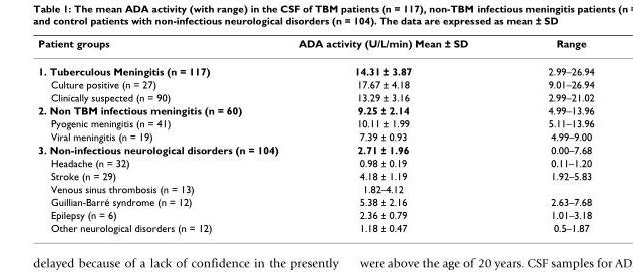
<table><thead><tr><td>Patient groups</td><td>ADA activity (U/L/min) Mean ± SD</td><td>Range</td></tr></thead><tbody><tr><td>1. Tuberculous Meningitis (n = 117)</td><td>14.31 ± 3.87</td><td>2.99–26.94</td></tr><tr><td>Culture positive (n = 27)</td><td>17.67 ± 4.18</td><td>9.01–26.94</td></tr><tr><td>Clinically suspected (n = 90)</td><td>13.29 ± 3.16</td><td>2.99–21.02</td></tr><tr><td>2. Non TBM infectious meningitis (n = 60)</td><td>9.25 ± 2.14</td><td>4.99–13.96</td></tr><tr><td>Pyogenic meningitis (n = 41)</td><td>10.11 ± 1.99</td><td>5.11–13.96</td></tr><tr><td>Viral meningitis (n = 19)</td><td>7.39 ± 0.93</td><td>4.99–9.00</td></tr><tr><td>3. Non-infectious neurological disorders (n = 104)</td><td>2.71 ± 1.96</td><td>0.00–7.68</td></tr><tr><td>Headache (n = 32)</td><td>0.98 ± 0.19</td><td>0.11–1.20</td></tr><tr><td>Stroke (n = 29)</td><td>4.18 ± 1.19</td><td>1.92–5.83</td></tr><tr><td>Venous sinus thrombosis (n = 13)</td><td>1.82–4.12</td><td></td></tr><tr><td>Guillian-Barré syndrome (n = 12)</td><td>5.38 ± 2.16</td><td>2.63–7.68</td></tr><tr><td>Epilepsy (n = 6)</td><td>2.36 ± 0.79</td><td>1.01–3.18</td></tr><tr><td>Other neurological disorders (n = 12)</td><td>1.18 ± 0.47</td><td>0.5–1.87</td></tr></tbody></table>